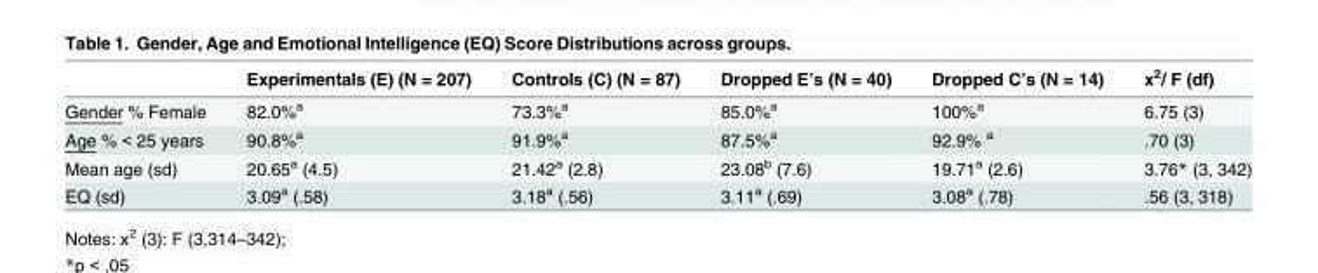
<table><thead><tr><td></td><td>Experimentals (E) (N = 207)</td><td>Controls (C) (N = 87)</td><td>Dropped E’s (N = 40)</td><td>Dropped C’s (N = 14)</td><td>x<sup>2</sup>/ F (df)</td></tr></thead><tbody><tr><td>Gender % Female</td><td>82.0%<sup>a</sup></td><td>73.3%<sup>a</sup></td><td>85.0%<sup>a</sup></td><td>100%<sup>a</sup></td><td>6.75 (3)</td></tr><tr><td>Age % &lt; 25 years</td><td>90.8%<sup>a</sup></td><td>91.9%<sup>a</sup></td><td>87.5%<sup>a</sup></td><td>92.9% <sup>a</sup></td><td>.70 (3)</td></tr><tr><td>Mean age (sd)</td><td>20.65<sup>a</sup> (4.5)</td><td>21.42<sup>a</sup> (2.8)</td><td>23.08<sup>b</sup> (7.6)</td><td>19.71<sup>a</sup> (2.6)</td><td>3.76* (3, 342)</td></tr><tr><td>EQ (sd)</td><td>3.09<sup>a</sup> (.58)</td><td>3.18<sup>a</sup> (.56)</td><td>3.11<sup>a</sup> (.69)</td><td>3.08<sup>a</sup> (.78)</td><td>.56 (3, 318)</td></tr></tbody></table>